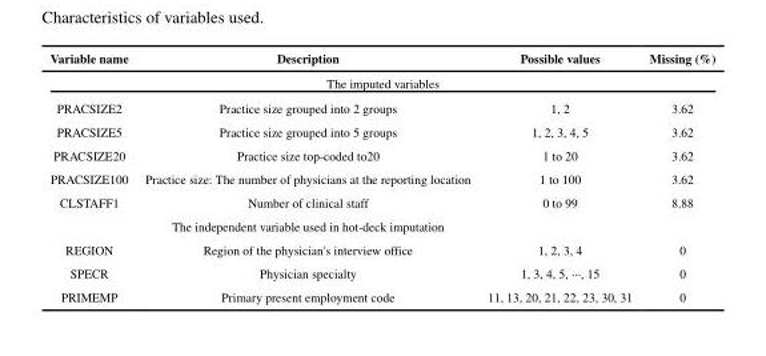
<table><thead><tr><td>Variable name</td><td>Description</td><td>Possible values</td><td>Missing (%)</td></tr></thead><tbody><tr><td colspan="4">The imputed variables</td></tr><tr><td>PRACSIZE2</td><td>Practice size grouped into 2 groups</td><td>1, 2</td><td>3.62</td></tr><tr><td>PRACSIZE5</td><td>Practice size grouped into 5 groups</td><td>1, 2, 3, 4, 5</td><td>3.62</td></tr><tr><td>PRACSIZE20</td><td>Practice size top-coded to20</td><td>1 to 20</td><td>3.62</td></tr><tr><td>PRACSIZE100</td><td>Practice size: The number of physicians at the reporting location</td><td>1 to 100</td><td>3.62</td></tr><tr><td rowspan="2">CLSTAFF1</td><td>Number of clinical staff</td><td>0 to 99</td><td>8.88</td></tr><tr><td>The independent variable used in hot-deck imputation</td><td></td><td></td></tr><tr><td>REGION</td><td>Region of the physician&#x27;s interview office</td><td>1, 2, 3, 4</td><td>0</td></tr><tr><td>SPECR</td><td>Physician specialty</td><td>1, 3, 4, 5, ···, 15</td><td>0</td></tr><tr><td>PRIMEMP</td><td>Primary present employment code</td><td>11, 13, 20, 21, 22, 23, 30, 31</td><td>0</td></tr></tbody></table>